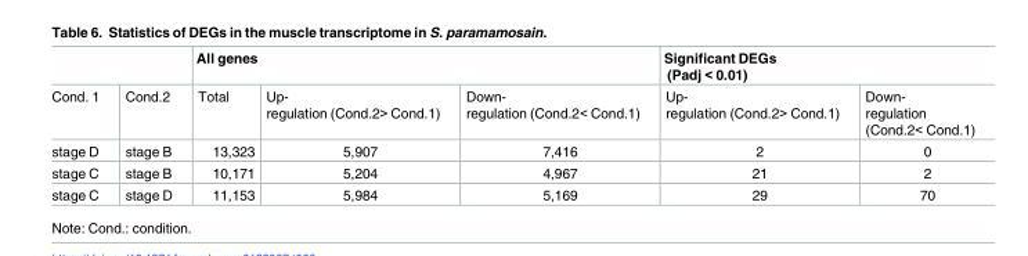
<table><thead><tr><td rowspan="2">Cond. 1</td><td rowspan="2">Cond.2</td><td colspan="3">All genes</td><td colspan="2">Significant DEGs (Padj &lt; 0.01)</td></tr><tr><td>Total</td><td>Up- regulation (Cond.2&gt; Cond.1)</td><td>Down- regulation (Cond.2&lt; Cond.1)</td><td>Up- regulation (Cond.2&gt; Cond.1)</td><td>Down- regulation (Cond.2&lt; Cond.1)</td></tr></thead><tbody><tr><td>stage D</td><td>stage B</td><td>13,323</td><td>5,907</td><td>7,416</td><td>2</td><td>0</td></tr><tr><td>stage C</td><td>stage B</td><td>10,171</td><td>5,204</td><td>4,967</td><td>21</td><td>2</td></tr><tr><td>stage C</td><td>stage D</td><td>11,153</td><td>5,984</td><td>5,169</td><td>29</td><td>70</td></tr></tbody></table>